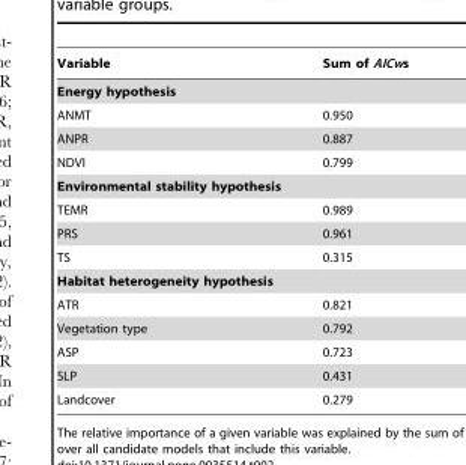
<table><thead><tr><td>Variable</td><td>Sum of AICws</td></tr></thead><tbody><tr><td colspan="2">Energy hypothesis</td></tr><tr><td>ANMT</td><td>0.950</td></tr><tr><td>ANPR</td><td>0.887</td></tr><tr><td>NDVI</td><td>0.799</td></tr><tr><td colspan="2">Environmental stability hypothesis</td></tr><tr><td>TEMR</td><td>0.989</td></tr><tr><td>PRS</td><td>0.961</td></tr><tr><td>TS</td><td>0.315</td></tr><tr><td colspan="2">Habitat heterogeneity hypothesis</td></tr><tr><td>ATR</td><td>0.821</td></tr><tr><td>Vegetation type</td><td>0.792</td></tr><tr><td>ASP</td><td>0.723</td></tr><tr><td>SLP</td><td>0.431</td></tr><tr><td>Landcover</td><td>0.279</td></tr></tbody></table>